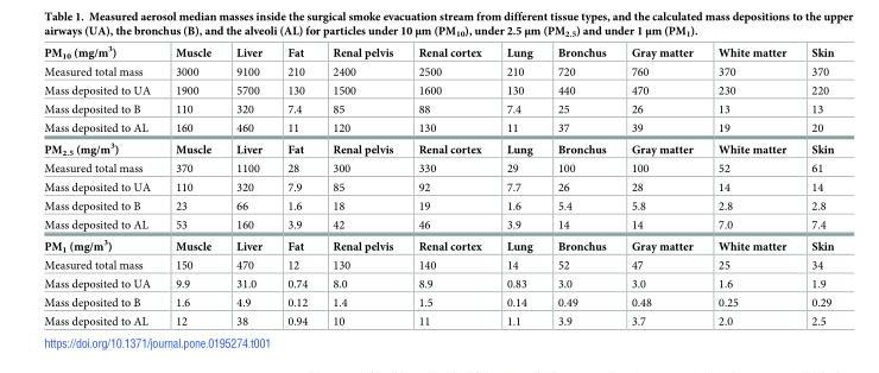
<table><tbody><tr><td>PM<sub>10</sub> (mg/m<sup>3</sup>)</td><td>Muscle</td><td>Liver</td><td>Fat</td><td>Renal pelvis</td><td>Renal cortex</td><td>Lung</td><td>Bronchus</td><td>Gray matter</td><td>White matter</td><td>Skin</td></tr><tr><td>Measured total mass</td><td>3000</td><td>9100</td><td>210</td><td>2400</td><td>2500</td><td>210</td><td>720</td><td>760</td><td>370</td><td>370</td></tr><tr><td>Mass deposited to UA</td><td>1900</td><td>5700</td><td>130</td><td>1500</td><td>1600</td><td>130</td><td>440</td><td>470</td><td>230</td><td>220</td></tr><tr><td>Mass deposited to B</td><td>110</td><td>320</td><td>7.4</td><td>85</td><td>88</td><td>7.4</td><td>25</td><td>26</td><td>13</td><td>13</td></tr><tr><td>Mass deposited to AL</td><td>160</td><td>460</td><td>11</td><td>120</td><td>130</td><td>11</td><td>37</td><td>39</td><td>19</td><td>20</td></tr><tr><td>PM<sub>2.5</sub> (mg/m<sup>3</sup>)</td><td>Muscle</td><td>Liver</td><td>Fat</td><td>Renal pelvis</td><td>Renal cortex</td><td>Lung</td><td>Bronchus</td><td>Gray matter</td><td>White matter</td><td>Skin</td></tr><tr><td>Measured total mass</td><td>370</td><td>1100</td><td>28</td><td>300</td><td>330</td><td>29</td><td>100</td><td>100</td><td>52</td><td>61</td></tr><tr><td>Mass deposited to UA</td><td>110</td><td>320</td><td>7.9</td><td>85</td><td>92</td><td>7.7</td><td>26</td><td>28</td><td>14</td><td>14</td></tr><tr><td>Mass deposited to B</td><td>23</td><td>66</td><td>1.6</td><td>18</td><td>19</td><td>1.6</td><td>5.4</td><td>5.8</td><td>2.8</td><td>2.8</td></tr><tr><td>Mass deposited to AL</td><td>53</td><td>160</td><td>3.9</td><td>42</td><td>46</td><td>3.9</td><td>14</td><td>14</td><td>7.0</td><td>7.4</td></tr><tr><td>PM<sub>1</sub> (mg/m<sup>3</sup>)</td><td>Muscle</td><td>Liver</td><td>Fat</td><td>Renal pelvis</td><td>Renal cortex</td><td>Lung</td><td>Bronchus</td><td>Gray matter</td><td>White matter</td><td>Skin</td></tr><tr><td>Measured total mass</td><td>150</td><td>470</td><td>12</td><td>130</td><td>140</td><td>14</td><td>52</td><td>47</td><td>25</td><td>34</td></tr><tr><td>Mass deposited to UA</td><td>9.9</td><td>31.0</td><td>0.74</td><td>8.0</td><td>8.9</td><td>0.83</td><td>3.0</td><td>3.0</td><td>1.6</td><td>1.9</td></tr><tr><td>Mass deposited to B</td><td>1.6</td><td>4.9</td><td>0.12</td><td>1.4</td><td>1.5</td><td>0.14</td><td>0.49</td><td>0.48</td><td>0.25</td><td>0.29</td></tr><tr><td>Mass deposited to AL</td><td>12</td><td>38</td><td>0.94</td><td>10</td><td>11</td><td>1.1</td><td>3.9</td><td>3.7</td><td>2.0</td><td>2.5</td></tr></tbody></table>